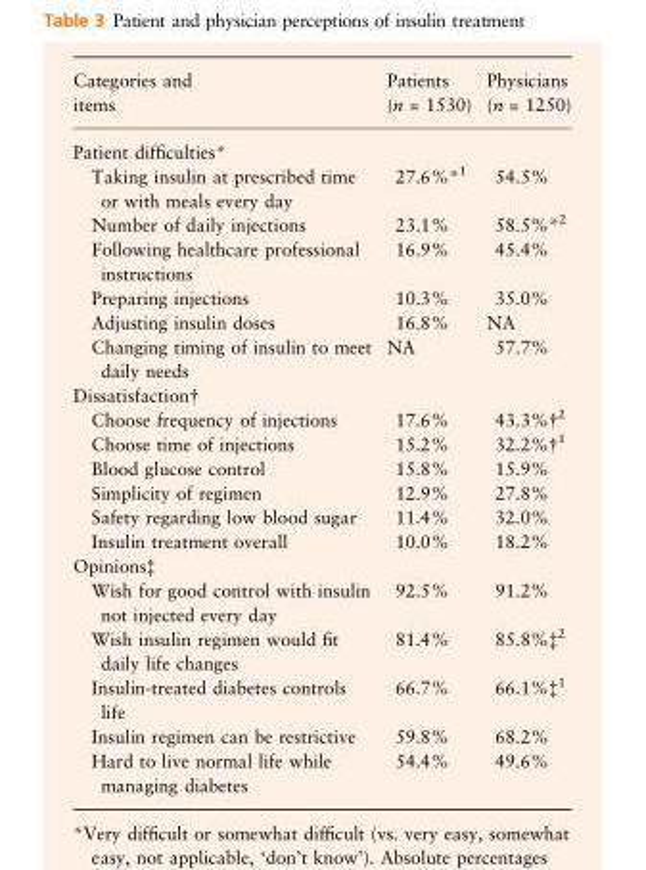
<table><thead><tr><td>Categories and items</td><td>Patients (n = 1530)</td><td>Physicians (n = 1250)</td></tr></thead><tbody><tr><td colspan="3">Patient difficulties*</td></tr><tr><td>Taking insulin at prescribed time or with meals every day</td><td>27.6%*<sup>1</sup></td><td>54.5%</td></tr><tr><td>Number of daily injections</td><td>23.1%</td><td>58.5%*<sup>2</sup></td></tr><tr><td>Following healthcare professional instructions</td><td>16.9%</td><td>45.4%</td></tr><tr><td>Preparing injections</td><td>10.3%</td><td>35.0%</td></tr><tr><td>Adjusting insulin doses</td><td>16.8%</td><td>NA</td></tr><tr><td>Changing timing of insulin to meet daily needs</td><td>NA</td><td>57.7%</td></tr><tr><td colspan="3">Dissatisfaction†</td></tr><tr><td>Choose frequency of injections</td><td>17.6%</td><td>43.3%†<sup>2</sup></td></tr><tr><td>Choose time of injections</td><td>15.2%</td><td>32.2%†<sup>1</sup></td></tr><tr><td>Blood glucose control</td><td>15.8%</td><td>15.9%</td></tr><tr><td>Simplicity of regimen</td><td>12.9%</td><td>27.8%</td></tr><tr><td>Safety regarding low blood sugar</td><td>11.4%</td><td>32.0%</td></tr><tr><td>Insulin treatment overall</td><td>10.0%</td><td>18.2%</td></tr><tr><td colspan="3">Opinions‡</td></tr><tr><td>Wish for good control with insulin not injected every day</td><td>92.5%</td><td>91.2%</td></tr><tr><td>Wish insulin regimen would fit daily life changes</td><td>81.4%</td><td>85.8%‡<sup>2</sup></td></tr><tr><td>Insulin-treated diabetes controls life</td><td>66.7%</td><td>66.1%‡<sup>1</sup></td></tr><tr><td>Insulin regimen can be restrictive</td><td>59.8%</td><td>68.2%</td></tr><tr><td>Hard to live normal life while managing diabetes</td><td>54.4%</td><td>49.6%</td></tr></tbody></table>